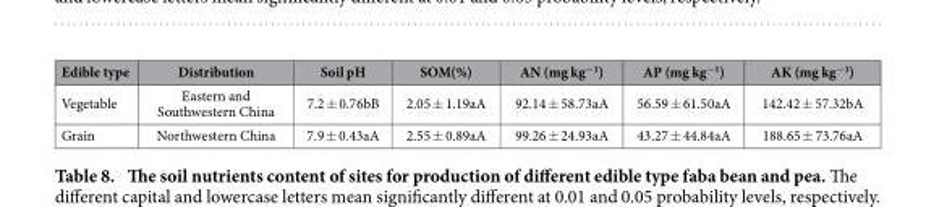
<table><thead><tr><td>Edible type</td><td>Distribution</td><td>Soil pH</td><td>SOM(%)</td><td>AN (mg kg<sup>−1</sup>)</td><td>AP (mg kg<sup>−1</sup>)</td><td>AK (mg kg<sup>−1</sup>)</td></tr></thead><tbody><tr><td>Vegetable</td><td>Eastern and Southwestern China</td><td>7.2 ± 0.76bB</td><td>2.05 ± 1.19aA</td><td>92.14 ± 58.73aA</td><td>56.59 ± 61.50aA</td><td>142.42 ± 57.32bA</td></tr><tr><td>Grain</td><td>Northwestern China</td><td>7.9 ± 0.43aA</td><td>2.55 ± 0.89aA</td><td>99.26 ± 24.93aA</td><td>43.27 ± 44.84aA</td><td>188.65 ± 73.76aA</td></tr></tbody></table>